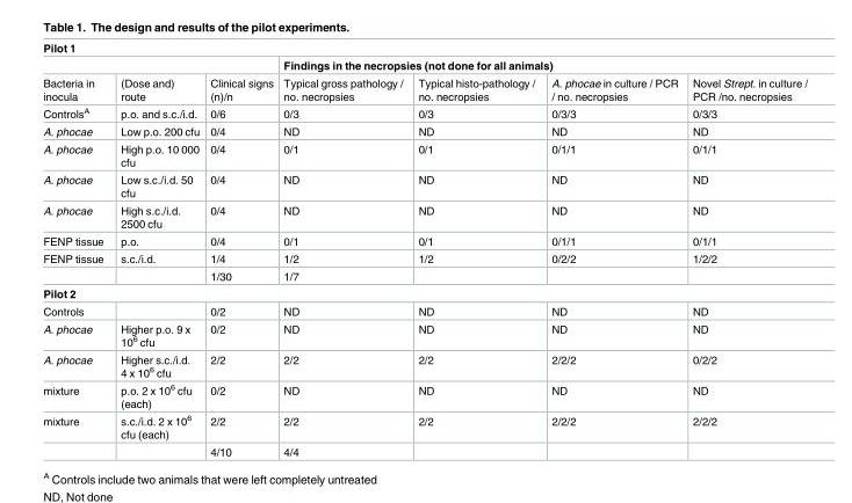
<table><tbody><tr><td colspan="7">Pilot 1</td></tr><tr><td colspan="3"></td><td colspan="4">Findings in the necropsies (not done for all animals)</td></tr><tr><td>Bacteria in inocula</td><td>(Dose and) route</td><td>Clinical signs (n)/n</td><td>Typical gross pathology / no. necropsies</td><td>Typical histo-pathology / no. necropsies</td><td>A. phocae in culture / PCR / no. necropsies</td><td>Novel Strept. in culture / PCR /no. necropsies</td></tr><tr><td>Controls<sup>A</sup></td><td>p.o. and s.c./i.d.</td><td>0/6</td><td>0/3</td><td>0/3</td><td>0/3/3</td><td>0/3/3</td></tr><tr><td>A. phocae</td><td>Low p.o. 200 cfu</td><td>0/4</td><td>ND</td><td>ND</td><td>ND</td><td>ND</td></tr><tr><td>A. phocae</td><td>High p.o. 10 000 cfu</td><td>0/4</td><td>0/1</td><td>0/1</td><td>0/1/1</td><td>0/1/1</td></tr><tr><td>A. phocae</td><td>Low s.c./i.d. 50 cfu</td><td>0/4</td><td>ND</td><td>ND</td><td>ND</td><td>ND</td></tr><tr><td>A. phocae</td><td>High s.c./i.d. 2500 cfu</td><td>0/4</td><td>ND</td><td>ND</td><td>ND</td><td>ND</td></tr><tr><td>FENP tissue</td><td>p.o.</td><td>0/4</td><td>0/1</td><td>0/1</td><td>0/1/1</td><td>0/1/1</td></tr><tr><td rowspan="2">FENP tissue</td><td>s.c./i.d.</td><td>1/4</td><td>1/2</td><td>1/2</td><td>0/2/2</td><td>1/2/2</td></tr><tr><td></td><td>1/30</td><td>1/7</td><td></td><td></td><td></td></tr><tr><td colspan="7">Pilot 2</td></tr><tr><td>Controls</td><td></td><td>0/2</td><td>ND</td><td>ND</td><td>ND</td><td>ND</td></tr><tr><td>A. phocae</td><td>Higher p.o. 9 x 10<sup>6</sup> cfu</td><td>0/2</td><td>ND</td><td>ND</td><td>ND</td><td>ND</td></tr><tr><td>A. phocae</td><td>Higher s.c./i.d. 4 x 10<sup>6</sup> cfu</td><td>2/2</td><td>2/2</td><td>2/2</td><td>2/2/2</td><td>0/2/2</td></tr><tr><td>mixture</td><td>p.o. 2 x 10<sup>6</sup> cfu (each)</td><td>0/2</td><td>ND</td><td>ND</td><td>ND</td><td>ND</td></tr><tr><td rowspan="2">mixture</td><td>s.c./i.d. 2 x 10<sup>6</sup> cfu (each)</td><td>2/2</td><td>2/2</td><td>2/2</td><td>2/2/2</td><td>2/2/2</td></tr><tr><td></td><td>4/10</td><td>4/4</td><td></td><td></td><td></td></tr></tbody></table>